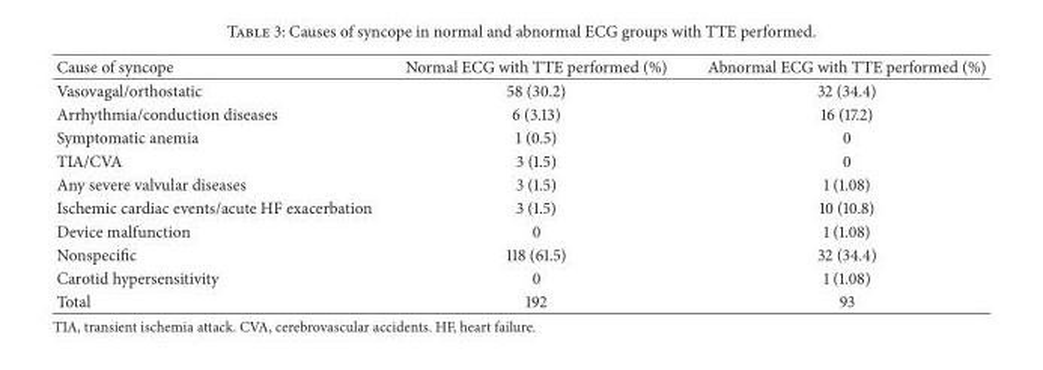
<table><thead><tr><td>Cause of syncope</td><td>Normal ECG with TTE performed (%)</td><td>Abnormal ECG with TTE performed (%)</td></tr></thead><tbody><tr><td>Vasovagal/orthostatic</td><td>58 (30.2)</td><td>32 (34.4)</td></tr><tr><td>Arrhythmia/conduction diseases</td><td>6 (3.13)</td><td>16 (17.2)</td></tr><tr><td>Symptomatic anemia</td><td>1 (0.5)</td><td>0</td></tr><tr><td>TIA/CVA</td><td>3 (1.5)</td><td>0</td></tr><tr><td>Any severe valvular diseases</td><td>3 (1.5)</td><td>1 (1.08)</td></tr><tr><td>Ischemic cardiac events/acute HF exacerbation</td><td>3 (1.5)</td><td>10 (10.8)</td></tr><tr><td>Device malfunction</td><td>0</td><td>1 (1.08)</td></tr><tr><td>Nonspecific</td><td>118 (61.5)</td><td>32 (34.4)</td></tr><tr><td>Carotid hypersensitivity</td><td>0</td><td>1 (1.08)</td></tr><tr><td>Total</td><td>192</td><td>93</td></tr></tbody></table>